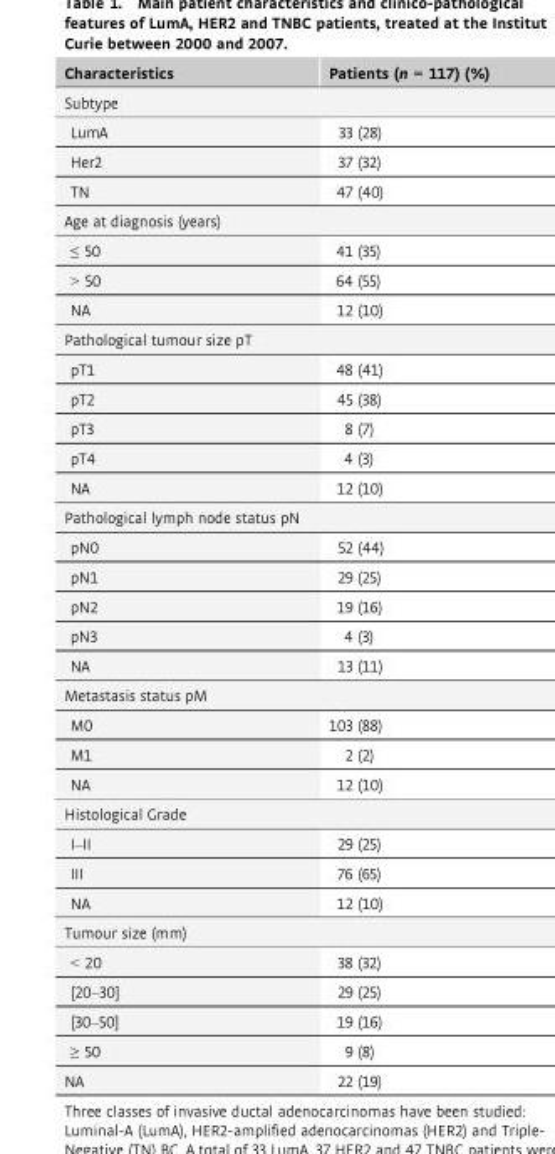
<table><thead><tr><td>Characteristics</td><td>Patients (n = 117) (%)</td></tr></thead><tbody><tr><td colspan="2">Subtype</td></tr><tr><td>LumA</td><td>33 (28)</td></tr><tr><td>Her2</td><td>37 (32)</td></tr><tr><td>TN</td><td>47 (40)</td></tr><tr><td colspan="2">Age at diagnosis (years)</td></tr><tr><td>≤ 50</td><td>41 (35)</td></tr><tr><td>&gt; 50</td><td>64 (55)</td></tr><tr><td>NA</td><td>12 (10)</td></tr><tr><td colspan="2">Pathological tumour size pT</td></tr><tr><td>pT1</td><td>48 (41)</td></tr><tr><td>pT2</td><td>45 (38)</td></tr><tr><td>pT3</td><td>8 (7)</td></tr><tr><td>pT4</td><td>4 (3)</td></tr><tr><td>NA</td><td>12 (10)</td></tr><tr><td colspan="2">Pathological lymph node status pN</td></tr><tr><td>pN0</td><td>52 (44)</td></tr><tr><td>pN1</td><td>29 (25)</td></tr><tr><td>pN2</td><td>19 (16)</td></tr><tr><td>pN3</td><td>4 (3)</td></tr><tr><td>NA</td><td>13 (11)</td></tr><tr><td colspan="2">Metastasis status pM</td></tr><tr><td>M0</td><td>103 (88)</td></tr><tr><td>M1</td><td>2 (2)</td></tr><tr><td>NA</td><td>12 (10)</td></tr><tr><td colspan="2">Histological Grade</td></tr><tr><td>I–II</td><td>29 (25)</td></tr><tr><td>III</td><td>76 (65)</td></tr><tr><td>NA</td><td>12 (10)</td></tr><tr><td colspan="2">Tumour size (mm)</td></tr><tr><td>&lt; 20</td><td>38 (32)</td></tr><tr><td>[20–30]</td><td>29 (25)</td></tr><tr><td>[30–50]</td><td>19 (16)</td></tr><tr><td>≥ 50</td><td>9 (8)</td></tr><tr><td>NA</td><td>22 (19)</td></tr></tbody></table>